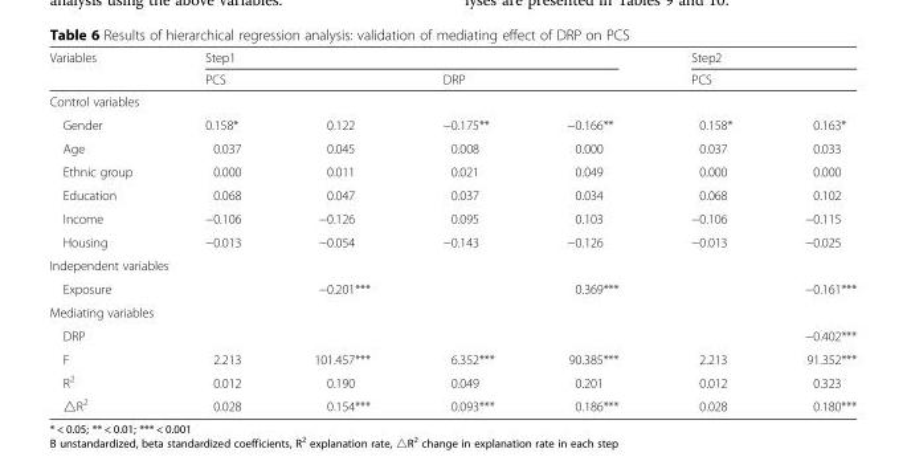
<table><thead><tr><td rowspan="2">Variables</td><td colspan="4">Step1</td><td rowspan="2" colspan="2">Step2 PCS</td></tr><tr><td colspan="2">PCS</td><td colspan="2">DRP</td></tr><tr><td colspan="7">Control variables</td></tr><tr><td>Gender</td><td>0.158*</td><td>0.122</td><td>−0.175**</td><td>−0.166**</td><td>0.158*</td><td>0.163*</td></tr></thead><tbody><tr><td>Age</td><td>0.037</td><td>0.045</td><td>0.008</td><td>0.000</td><td>0.037</td><td>0.033</td></tr><tr><td>Ethnic group</td><td>0.000</td><td>0.011</td><td>0.021</td><td>0.049</td><td>0.000</td><td>0.000</td></tr><tr><td>Education</td><td>0.068</td><td>0.047</td><td>0.037</td><td>0.034</td><td>0.068</td><td>0.102</td></tr><tr><td>Income</td><td>−0.106</td><td>−0.126</td><td>0.095</td><td>0.103</td><td>−0.106</td><td>−0.115</td></tr><tr><td>Housing</td><td>−0.013</td><td>−0.054</td><td>−0.143</td><td>−0.126</td><td>−0.013</td><td>−0.025</td></tr><tr><td colspan="7">Independent variables</td></tr><tr><td>Exposure</td><td></td><td>−0.201***</td><td></td><td>0.369***</td><td></td><td>−0.161***</td></tr><tr><td colspan="7">Mediating variables</td></tr><tr><td>DRP</td><td></td><td></td><td></td><td></td><td></td><td>−0.402***</td></tr><tr><td>F</td><td>2.213</td><td>101.457***</td><td>6.352***</td><td>90.385***</td><td>2.213</td><td>91.352***</td></tr><tr><td>R<sup>2</sup></td><td>0.012</td><td>0.190</td><td>0.049</td><td>0.201</td><td>0.012</td><td>0.323</td></tr><tr><td>△R<sup>2</sup></td><td>0.028</td><td>0.154***</td><td>0.093***</td><td>0.186***</td><td>0.028</td><td>0.180***</td></tr></tbody></table>